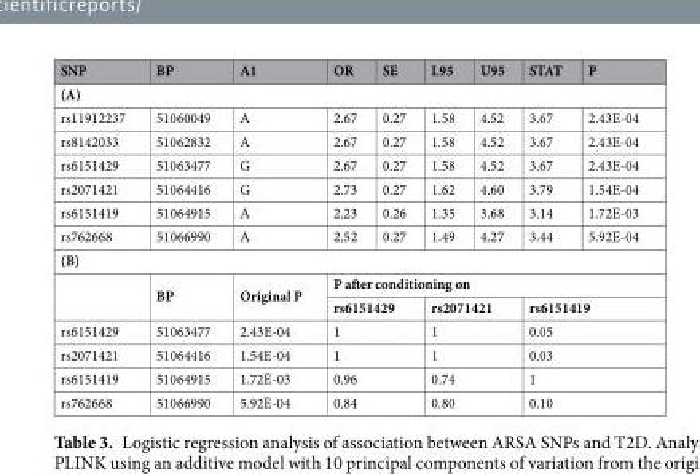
<table><thead><tr><td>SNP</td><td>BP</td><td>A1</td><td>OR</td><td>SE</td><td>L95</td><td>U95</td><td>STAT</td><td>P</td></tr></thead><tbody><tr><td colspan="9">(A)</td></tr><tr><td>rs11912237</td><td>51060049</td><td>A</td><td>2.67</td><td>0.27</td><td>1.58</td><td>4.52</td><td>3.67</td><td>2.43E-04</td></tr><tr><td>rs8142033</td><td>51062832</td><td>A</td><td>2.67</td><td>0.27</td><td>1.58</td><td>4.52</td><td>3.67</td><td>2.43E-04</td></tr><tr><td>rs6151429</td><td>51063477</td><td>G</td><td>2.67</td><td>0.27</td><td>1.58</td><td>4.52</td><td>3.67</td><td>2.43E-04</td></tr><tr><td>rs2071421</td><td>51064416</td><td>G</td><td>2.73</td><td>0.27</td><td>1.62</td><td>4.60</td><td>3.79</td><td>1.54E-04</td></tr><tr><td>rs6151419</td><td>51064915</td><td>A</td><td>2.23</td><td>0.26</td><td>1.35</td><td>3.68</td><td>3.14</td><td>1.72E-03</td></tr><tr><td>rs762668</td><td>51066990</td><td>A</td><td>2.52</td><td>0.27</td><td>1.49</td><td>4.27</td><td>3.44</td><td>5.92E-04</td></tr><tr><td colspan="9">(B)</td></tr><tr><td rowspan="2"></td><td rowspan="2">BP</td><td rowspan="2">Original P</td><td colspan="6">P after conditioning on</td></tr><tr><td colspan="2">rs6151429</td><td colspan="2">rs2071421</td><td colspan="2">rs6151419</td></tr><tr><td>rs6151429</td><td>51063477</td><td>2.43E-04</td><td colspan="2">1</td><td colspan="2">1</td><td colspan="2">0.05</td></tr><tr><td>rs2071421</td><td>51064416</td><td>1.54E-04</td><td colspan="2">1</td><td colspan="2">1</td><td colspan="2">0.03</td></tr><tr><td>rs6151419</td><td>51064915</td><td>1.72E-03</td><td colspan="2">0.96</td><td colspan="2">0.74</td><td colspan="2">1</td></tr><tr><td>rs762668</td><td>51066990</td><td>5.92E-04</td><td colspan="2">0.84</td><td colspan="2">0.80</td><td colspan="2">0.10</td></tr></tbody></table>